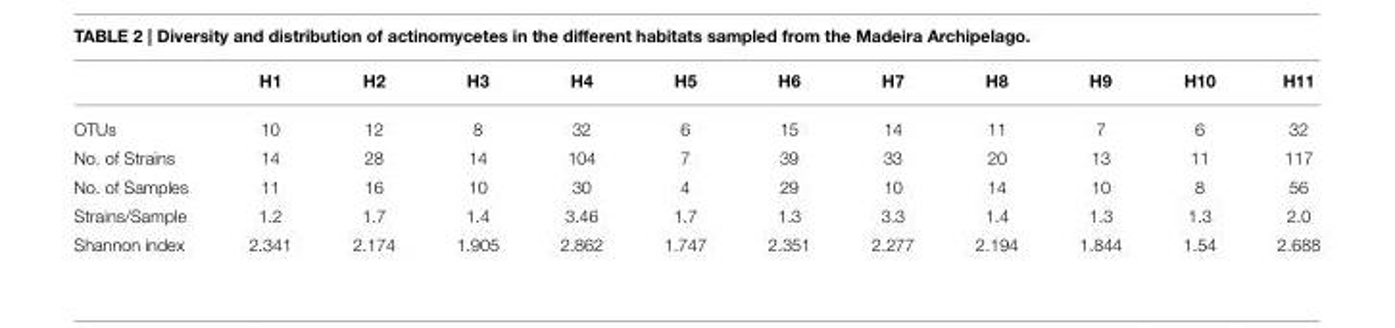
<table><thead><tr><td></td><td>H1</td><td>H2</td><td>H3</td><td>H4</td><td>H5</td><td>H6</td><td>H7</td><td>H8</td><td>H9</td><td>H10</td><td>H11</td></tr></thead><tbody><tr><td>OTUs</td><td>10</td><td>12</td><td>8</td><td>32</td><td>6</td><td>15</td><td>14</td><td>11</td><td>7</td><td>6</td><td>32</td></tr><tr><td>No. of Strains</td><td>14</td><td>28</td><td>14</td><td>104</td><td>7</td><td>39</td><td>33</td><td>20</td><td>13</td><td>11</td><td>117</td></tr><tr><td>No. of Samples</td><td>11</td><td>16</td><td>10</td><td>30</td><td>4</td><td>29</td><td>10</td><td>14</td><td>10</td><td>8</td><td>56</td></tr><tr><td>Strains/Sample</td><td>1.2</td><td>1.7</td><td>1.4</td><td>3.46</td><td>1.7</td><td>1.3</td><td>3.3</td><td>1.4</td><td>1.3</td><td>1.3</td><td>2.0</td></tr><tr><td>Shannon index</td><td>2.341</td><td>2.174</td><td>1.905</td><td>2.862</td><td>1.747</td><td>2.351</td><td>2.277</td><td>2.194</td><td>1.844</td><td>1.54</td><td>2.688</td></tr></tbody></table>